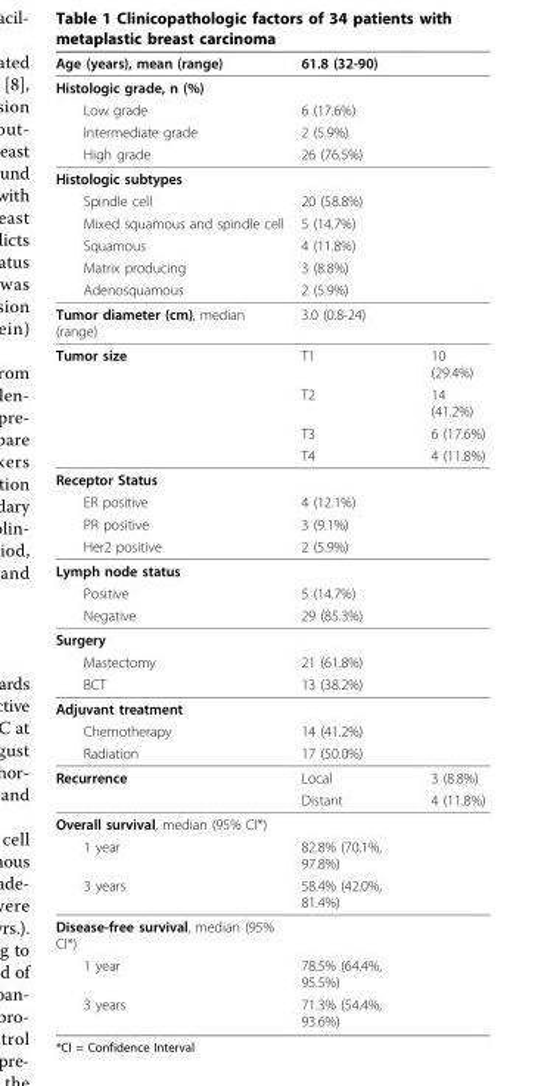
<table><thead><tr><td>Age (years), mean (range)</td><td>61.8 (32-90)</td><td></td></tr></thead><tbody><tr><td colspan="3">Histologic grade, n (%)</td></tr><tr><td>Low grade</td><td>6 (17.6%)</td><td></td></tr><tr><td>Intermediate grade</td><td>2 (5.9%)</td><td></td></tr><tr><td>High grade</td><td>26 (76.5%)</td><td></td></tr><tr><td colspan="3">Histologic subtypes</td></tr><tr><td>Spindle cell</td><td>20 (58.8%)</td><td></td></tr><tr><td>Mixed squamous and spindle cell</td><td>5 (14.7%)</td><td></td></tr><tr><td>Squamous</td><td>4 (11.8%)</td><td></td></tr><tr><td>Matrix producing</td><td>3 (8.8%)</td><td></td></tr><tr><td>Adenosquamous</td><td>2 (5.9%)</td><td></td></tr><tr><td>Tumor diameter (cm), median (range)</td><td>3.0 (0.8-24)</td><td></td></tr><tr><td rowspan="4">Tumor size</td><td>T1</td><td>10 (29.4%)</td></tr><tr><td>T2</td><td>14 (41.2%)</td></tr><tr><td>T3</td><td>6 (17.6%)</td></tr><tr><td>T4</td><td>4 (11.8%)</td></tr><tr><td colspan="3">Receptor Status</td></tr><tr><td>ER positive</td><td>4 (12.1%)</td><td></td></tr><tr><td>PR positive</td><td>3 (9.1%)</td><td></td></tr><tr><td>Her2 positive</td><td>2 (5.9%)</td><td></td></tr><tr><td colspan="3">Lymph node status</td></tr><tr><td>Positive</td><td>5 (14.7%)</td><td></td></tr><tr><td>Negative</td><td>29 (85.3%)</td><td></td></tr><tr><td colspan="3">Surgery</td></tr><tr><td>Mastectomy</td><td>21 (61.8%)</td><td></td></tr><tr><td>BCT</td><td>13 (38.2%)</td><td></td></tr><tr><td colspan="3">Adjuvant treatment</td></tr><tr><td>Chemotherapy</td><td>14 (41.2%)</td><td></td></tr><tr><td>Radiation</td><td>17 (50.0%)</td><td></td></tr><tr><td rowspan="2">Recurrence</td><td>Local</td><td>3 (8.8%)</td></tr><tr><td>Distant</td><td>4 (11.8%)</td></tr><tr><td colspan="3">Overall survival, median (95% CI*)</td></tr><tr><td>1 year</td><td>82.8% (70.1%, 97.8%)</td><td></td></tr><tr><td>3 years</td><td>58.4% (42.0%, 81.4%)</td><td></td></tr><tr><td colspan="3">Disease-free survival, median (95% CI*)</td></tr><tr><td>1 year</td><td>78.5% (64.4%, 95.5%)</td><td></td></tr><tr><td>3 years</td><td>71.3% (54.4%, 93.6%)</td><td></td></tr></tbody></table>